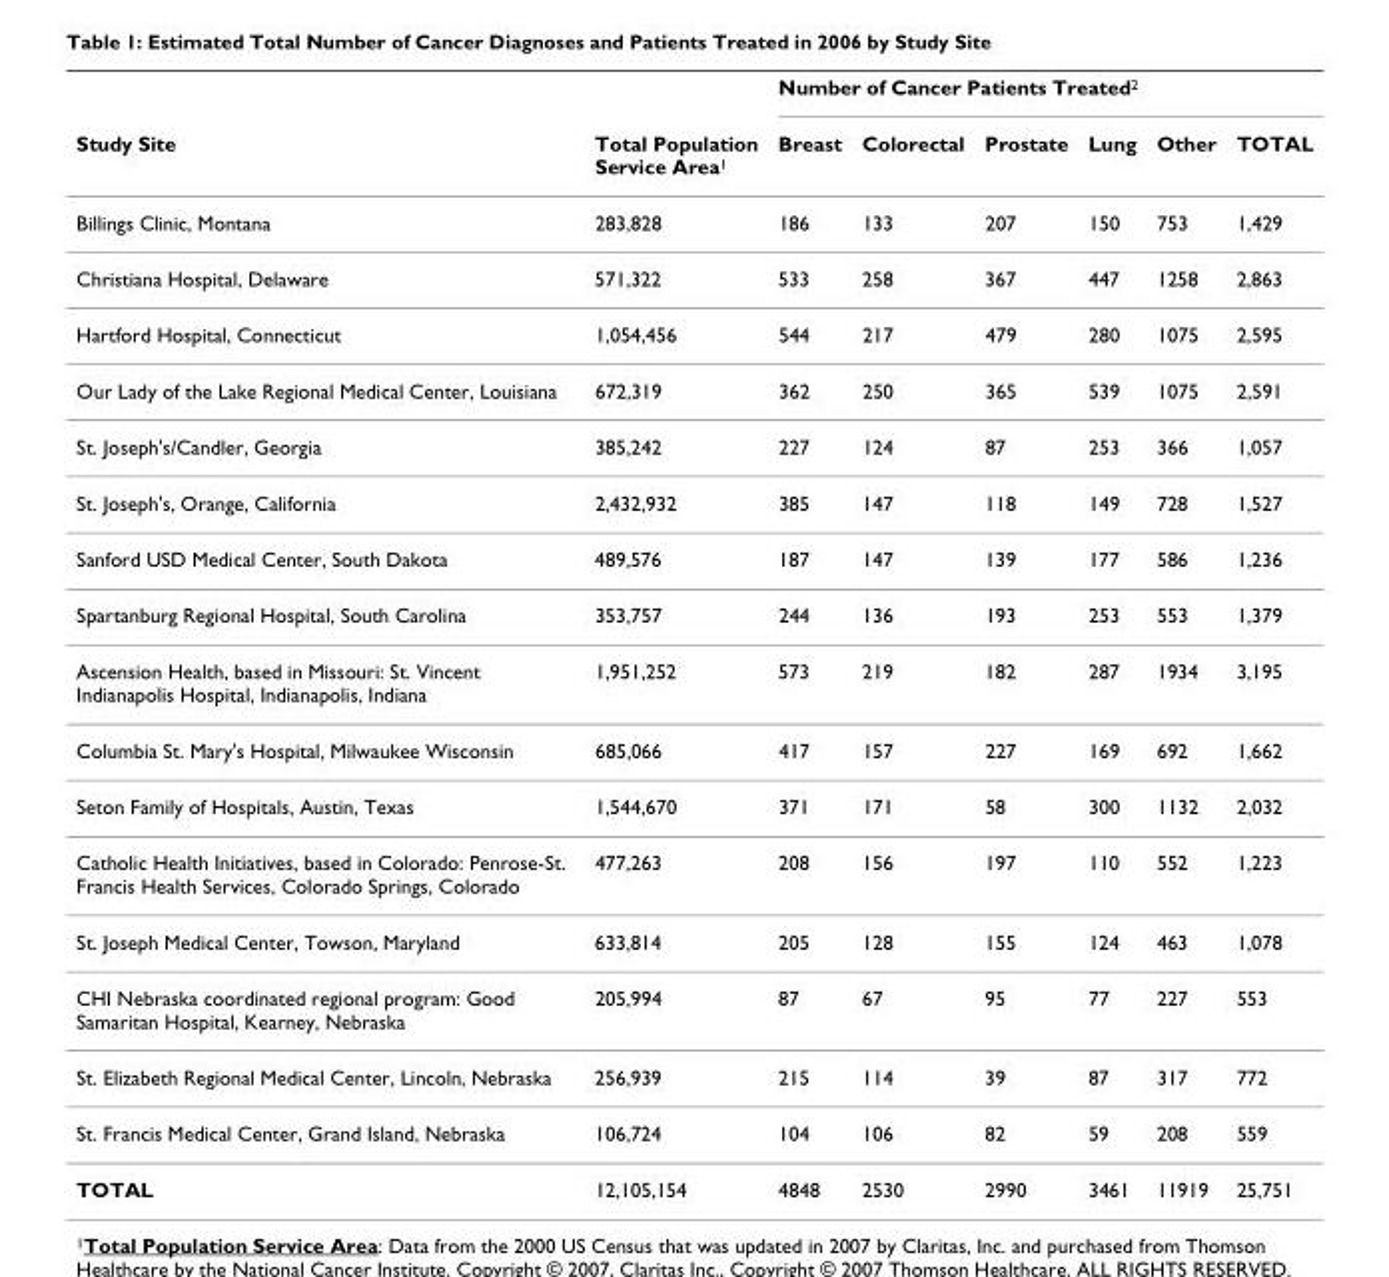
<table><thead><tr><td rowspan="2">Study Site</td><td rowspan="2">Total Population Service Area<sup>1</sup></td><td colspan="6">Number of Cancer Patients Treated<sup>2</sup></td></tr><tr><td>Breast</td><td>Colorectal</td><td>Prostate</td><td>Lung</td><td>Other</td><td>TOTAL</td></tr></thead><tbody><tr><td>Billings Clinic, Montana</td><td>283,828</td><td>186</td><td>133</td><td>207</td><td>150</td><td>753</td><td>1,429</td></tr><tr><td>Christiana Hospital, Delaware</td><td>571,322</td><td>533</td><td>258</td><td>367</td><td>447</td><td>1258</td><td>2,863</td></tr><tr><td>Hartford Hospital, Connecticut</td><td>1,054,456</td><td>544</td><td>217</td><td>479</td><td>280</td><td>1075</td><td>2,595</td></tr><tr><td>Our Lady of the Lake Regional Medical Center, Louisiana</td><td>672,319</td><td>362</td><td>250</td><td>365</td><td>539</td><td>1075</td><td>2,591</td></tr><tr><td>St. Joseph&#x27;s/Candler, Georgia</td><td>385,242</td><td>227</td><td>124</td><td>87</td><td>253</td><td>366</td><td>1,057</td></tr><tr><td>St. Joseph&#x27;s, Orange, California</td><td>2,432,932</td><td>385</td><td>147</td><td>118</td><td>149</td><td>728</td><td>1,527</td></tr><tr><td>Sanford USD Medical Center, South Dakota</td><td>489,576</td><td>187</td><td>147</td><td>139</td><td>177</td><td>586</td><td>1,236</td></tr><tr><td>Spartanburg Regional Hospital, South Carolina</td><td>353,757</td><td>244</td><td>136</td><td>193</td><td>253</td><td>553</td><td>1,379</td></tr><tr><td>Ascension Health, based in Missouri: St. Vincent Indianapolis Hospital, Indianapolis, Indiana</td><td>1,951,252</td><td>573</td><td>219</td><td>182</td><td>287</td><td>1934</td><td>3,195</td></tr><tr><td>Columbia St. Mary&#x27;s Hospital, Milwaukee Wisconsin</td><td>685,066</td><td>417</td><td>157</td><td>227</td><td>169</td><td>692</td><td>1,662</td></tr><tr><td>Seton Family of Hospitals, Austin, Texas</td><td>1,544,670</td><td>371</td><td>171</td><td>58</td><td>300</td><td>1132</td><td>2,032</td></tr><tr><td>Catholic Health Initiatives, based in Colorado: Penrose-St. Francis Health Services, Colorado Springs, Colorado</td><td>477,263</td><td>208</td><td>156</td><td>197</td><td>110</td><td>552</td><td>1,223</td></tr><tr><td>St. Joseph Medical Center, Towson, Maryland</td><td>633,814</td><td>205</td><td>128</td><td>155</td><td>124</td><td>463</td><td>1,078</td></tr><tr><td>CHI Nebraska coordinated regional program: Good Samaritan Hospital, Kearney, Nebraska</td><td>205,994</td><td>87</td><td>67</td><td>95</td><td>77</td><td>227</td><td>553</td></tr><tr><td>St. Elizabeth Regional Medical Center, Lincoln, Nebraska</td><td>256,939</td><td>215</td><td>114</td><td>39</td><td>87</td><td>317</td><td>772</td></tr><tr><td>St. Francis Medical Center, Grand Island, Nebraska</td><td>106,724</td><td>104</td><td>106</td><td>82</td><td>59</td><td>208</td><td>559</td></tr><tr><td>TOTAL</td><td>12,105,154</td><td>4848</td><td>2530</td><td>2990</td><td>3461</td><td>11919</td><td>25,751</td></tr></tbody></table>